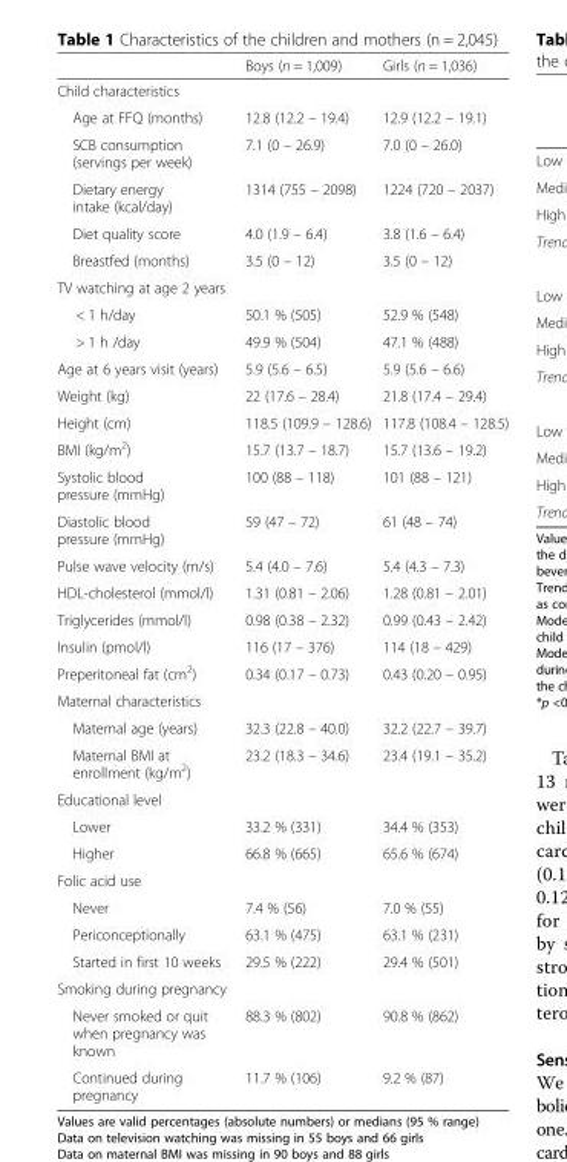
<table><thead><tr><td></td><td>Boys (n = 1,009)</td><td>Girls (n = 1,036)</td></tr></thead><tbody><tr><td colspan="3">Child characteristics</td></tr><tr><td>Age at FFQ (months)</td><td>12.8 (12.2 – 19.4)</td><td>12.9 (12.2 – 19.1)</td></tr><tr><td>SCB consumption (servings per week)</td><td>7.1 (0 – 26.9)</td><td>7.0 (0 – 26.0)</td></tr><tr><td>Dietary energy intake (kcal/day)</td><td>1314 (755 – 2098)</td><td>1224 (720 – 2037)</td></tr><tr><td>Diet quality score</td><td>4.0 (1.9 – 6.4)</td><td>3.8 (1.6 – 6.4)</td></tr><tr><td>Breastfed (months)</td><td>3.5 (0 – 12)</td><td>3.5 (0 – 12)</td></tr><tr><td colspan="3">TV watching at age 2 years</td></tr><tr><td>&lt; 1 h/day</td><td>50.1 % (505)</td><td>52.9 % (548)</td></tr><tr><td>&gt; 1 h /day</td><td>49.9 % (504)</td><td>47.1 % (488)</td></tr><tr><td>Age at 6 years visit (years)</td><td>5.9 (5.6 – 6.5)</td><td>5.9 (5.6 – 6.6)</td></tr><tr><td>Weight (kg)</td><td>22 (17.6 – 28.4)</td><td>21.8 (17.4 – 29.4)</td></tr><tr><td>Height (cm)</td><td>118.5 (109.9 – 128.6)</td><td>117.8 (108.4 – 128.5)</td></tr><tr><td>BMI (kg/m<sup>2</sup>)</td><td>15.7 (13.7 – 18.7)</td><td>15.7 (13.6 – 19.2)</td></tr><tr><td>Systolic blood pressure (mmHg)</td><td>100 (88 – 118)</td><td>101 (88 – 121)</td></tr><tr><td>Diastolic blood pressure (mmHg)</td><td>59 (47 – 72)</td><td>61 (48 – 74)</td></tr><tr><td>Pulse wave velocity (m/s)</td><td>5.4 (4.0 – 7.6)</td><td>5.4 (4.3 – 7.3)</td></tr><tr><td>HDL-cholesterol (mmol/l)</td><td>1.31 (0.81 – 2.06)</td><td>1.28 (0.81 – 2.01)</td></tr><tr><td>Triglycerides (mmol/l)</td><td>0.98 (0.38 – 2.32)</td><td>0.99 (0.43 – 2.42)</td></tr><tr><td>Insulin (pmol/l)</td><td>116 (17 – 376)</td><td>114 (18 – 429)</td></tr><tr><td>Preperitoneal fat (cm<sup>2</sup>)</td><td>0.34 (0.17 – 0.73)</td><td>0.43 (0.20 – 0.95)</td></tr><tr><td colspan="3">Maternal characteristics</td></tr><tr><td>Maternal age (years)</td><td>32.3 (22.8 – 40.0)</td><td>32.2 (22.7 – 39.7)</td></tr><tr><td>Maternal BMI at enrollment (kg/m<sup>2</sup>)</td><td>23.2 (18.3 – 34.6)</td><td>23.4 (19.1 – 35.2)</td></tr><tr><td colspan="3">Educational level</td></tr><tr><td>Lower</td><td>33.2 % (331)</td><td>34.4 % (353)</td></tr><tr><td>Higher</td><td>66.8 % (665)</td><td>65.6 % (674)</td></tr><tr><td colspan="3">Folic acid use</td></tr><tr><td>Never</td><td>7.4 % (56)</td><td>7.0 % (55)</td></tr><tr><td>Periconceptionally</td><td>63.1 % (475)</td><td>63.1 % (231)</td></tr><tr><td>Started in first 10 weeks</td><td>29.5 % (222)</td><td>29.4 % (501)</td></tr><tr><td colspan="3">Smoking during pregnancy</td></tr><tr><td>Never smoked or quit when pregnancy was known</td><td>88.3 % (802)</td><td>90.8 % (862)</td></tr><tr><td>Continued during pregnancy</td><td>11.7 % (106)</td><td>9.2 % (87)</td></tr></tbody></table>